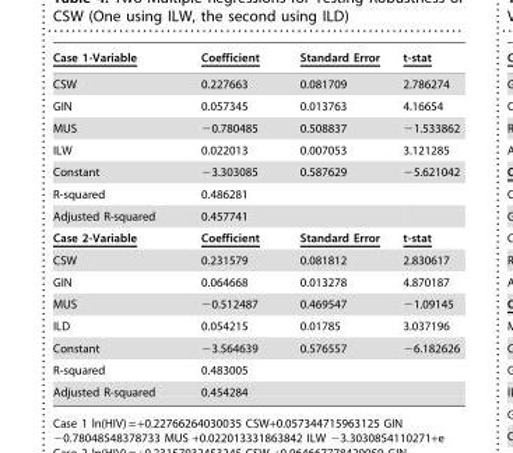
<table><thead><tr><td>Case 1-Variable</td><td>Coefficient</td><td>Standard Error</td><td>t-stat</td></tr></thead><tbody><tr><td>CSW</td><td>0.227663</td><td>0.081709</td><td>2.786274</td></tr><tr><td>GIN</td><td>0.057345</td><td>0.013763</td><td>4.16654</td></tr><tr><td>MUS</td><td>−0.780485</td><td>0.508837</td><td>−1.533862</td></tr><tr><td>ILW</td><td>0.022013</td><td>0.007053</td><td>3.121285</td></tr><tr><td>Constant</td><td>−3.303085</td><td>0.587629</td><td>−5.621042</td></tr><tr><td>R-squared</td><td>0.486281</td><td></td><td></td></tr><tr><td>Adjusted R-squared</td><td>0.457741</td><td></td><td></td></tr><tr><td>Case 2-Variable</td><td>Coefficient</td><td>Standard Error</td><td>t-stat</td></tr><tr><td>CSW</td><td>0.231579</td><td>0.081812</td><td>2.830617</td></tr><tr><td>GIN</td><td>0.064668</td><td>0.013278</td><td>4.870187</td></tr><tr><td>MUS</td><td>−0.512487</td><td>0.469547</td><td>−1.09145</td></tr><tr><td>ILD</td><td>0.054215</td><td>0.01785</td><td>3.037196</td></tr><tr><td>Constant</td><td>−3.564639</td><td>0.576557</td><td>−6.182626</td></tr><tr><td>R-squared</td><td>0.483005</td><td></td><td></td></tr><tr><td>Adjusted R-squared</td><td>0.454284</td><td></td><td></td></tr></tbody></table>